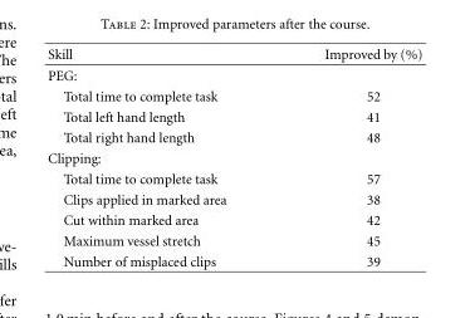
<table><thead><tr><td>Skill</td><td>Improved by (%)</td></tr></thead><tbody><tr><td colspan="2">PEG:</td></tr><tr><td>Total time to complete task</td><td>52</td></tr><tr><td>Total left hand length</td><td>41</td></tr><tr><td>Total right hand length</td><td>48</td></tr><tr><td colspan="2">Clipping:</td></tr><tr><td>Total time to complete task</td><td>57</td></tr><tr><td>Clips applied in marked area</td><td>38</td></tr><tr><td>Cut within marked area</td><td>42</td></tr><tr><td>Maximum vessel stretch</td><td>45</td></tr><tr><td>Number of misplaced clips</td><td>39</td></tr></tbody></table>